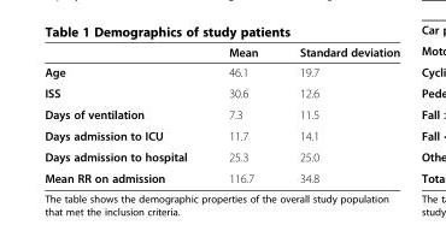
<table><thead><tr><td></td><td>Mean</td><td>Standard deviation</td></tr></thead><tbody><tr><td>Age</td><td>46.1</td><td>19.7</td></tr><tr><td>ISS</td><td>30.6</td><td>12.6</td></tr><tr><td>Days of ventilation</td><td>7.3</td><td>11.5</td></tr><tr><td>Days admission to ICU</td><td>11.7</td><td>14.1</td></tr><tr><td>Days admission to hospital</td><td>25.3</td><td>25.0</td></tr><tr><td>Mean RR on admission</td><td>116.7</td><td>34.8</td></tr></tbody></table>